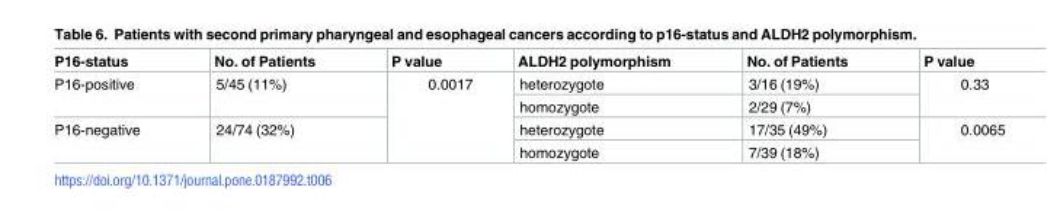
<table><thead><tr><td>P16-status</td><td>No. of Patients</td><td>P value</td><td>ALDH2 polymorphism</td><td>No. of Patients</td><td>P value</td></tr></thead><tbody><tr><td rowspan="2">P16-positive</td><td rowspan="2">5/45 (11%)</td><td rowspan="4">0.0017</td><td>heterozygote</td><td>3/16 (19%)</td><td rowspan="2">0.33</td></tr><tr><td>homozygote</td><td>2/29 (7%)</td></tr><tr><td rowspan="2">P16-negative</td><td rowspan="2">24/74 (32%)</td><td>heterozygote</td><td>17/35 (49%)</td><td rowspan="2">0.0065</td></tr><tr><td>homozygote</td><td>7/39 (18%)</td></tr></tbody></table>